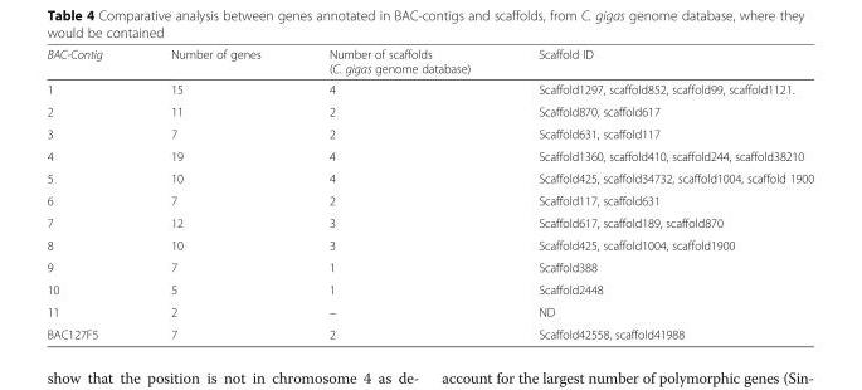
<table><thead><tr><td>BAC-Contig</td><td>Number of genes</td><td>Number of scaffolds (C. gigas genome database)</td><td>Scaffold ID</td></tr></thead><tbody><tr><td>1</td><td>15</td><td>4</td><td>Scaffold1297, scaffold852, scaffold99, scaffold1121.</td></tr><tr><td>2</td><td>11</td><td>2</td><td>Scaffold870, scaffold617</td></tr><tr><td>3</td><td>7</td><td>2</td><td>Scaffold631, scaffold117</td></tr><tr><td>4</td><td>19</td><td>4</td><td>Scaffold1360, scaffold410, scaffold244, scaffold38210</td></tr><tr><td>5</td><td>10</td><td>4</td><td>Scaffold425, scaffold34732, scaffold1004, scaffold 1900</td></tr><tr><td>6</td><td>7</td><td>2</td><td>Scaffold117, scaffold631</td></tr><tr><td>7</td><td>12</td><td>3</td><td>Scaffold617, scaffold189, scaffold870</td></tr><tr><td>8</td><td>10</td><td>3</td><td>Scaffold425, scaffold1004, scaffold1900</td></tr><tr><td>9</td><td>7</td><td>1</td><td>Scaffold388</td></tr><tr><td>10</td><td>5</td><td>1</td><td>Scaffold2448</td></tr><tr><td>11</td><td>2</td><td>–</td><td>ND</td></tr><tr><td>BAC127F5</td><td>7</td><td>2</td><td>Scaffold42558, scaffold41988</td></tr></tbody></table>